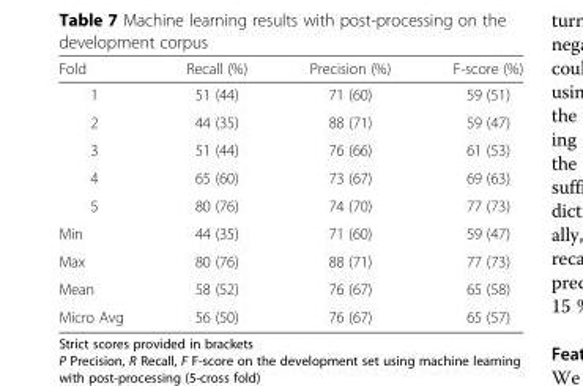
<table><thead><tr><td>Fold</td><td>Recall (%)</td><td>Precision (%)</td><td>F-score (%)</td></tr></thead><tbody><tr><td>1</td><td>51 (44)</td><td>71 (60)</td><td>59 (51)</td></tr><tr><td>2</td><td>44 (35)</td><td>88 (71)</td><td>59 (47)</td></tr><tr><td>3</td><td>51 (44)</td><td>76 (66)</td><td>61 (53)</td></tr><tr><td>4</td><td>65 (60)</td><td>73 (67)</td><td>69 (63)</td></tr><tr><td>5</td><td>80 (76)</td><td>74 (70)</td><td>77 (73)</td></tr><tr><td>Min</td><td>44 (35)</td><td>71 (60)</td><td>59 (47)</td></tr><tr><td>Max</td><td>80 (76)</td><td>88 (71)</td><td>77 (73)</td></tr><tr><td>Mean</td><td>58 (52)</td><td>76 (67)</td><td>65 (58)</td></tr><tr><td>Micro Avg</td><td>56 (50)</td><td>76 (67)</td><td>65 (57)</td></tr></tbody></table>